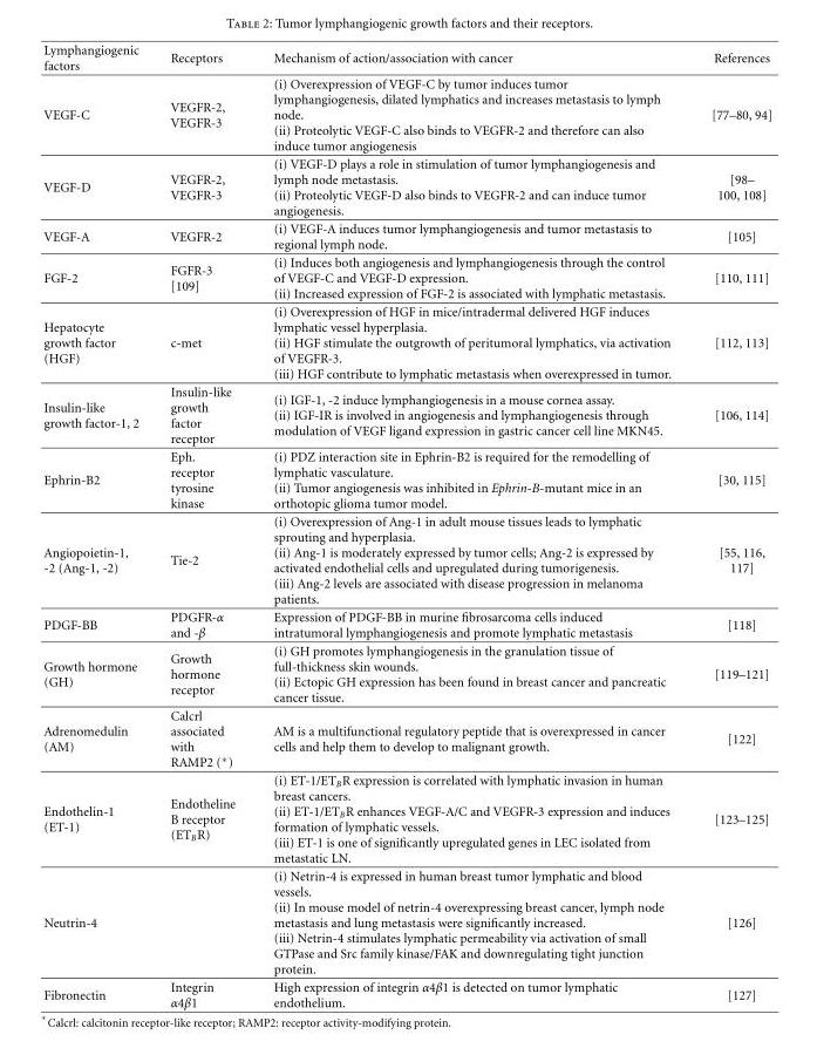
<table><thead><tr><td>Lymphangiogenic factors</td><td>Receptors</td><td>Mechanism of action/association with cancer</td><td>References</td></tr></thead><tbody><tr><td>VEGF-C</td><td>VEGFR-2, VEGFR-3</td><td>(i) Overexpression of VEGF-C by tumor induces tumor lymphangiogenesis, dilated lymphatics and increases metastasis to lymph node. (ii) Proteolytic VEGF-C also binds to VEGFR-2 and therefore can also induce tumor angiogenesis</td><td>[77–80, 94]</td></tr><tr><td>VEGF-D</td><td>VEGFR-2, VEGFR-3</td><td>(i) VEGF-D plays a role in stimulation of tumor lymphangiogenesis and lymph node metastasis. (ii) Proteolytic VEGF-D also binds to VEGFR-2 and can induce tumor angiogenesis.</td><td>[98– 100, 108]</td></tr><tr><td>VEGF-A</td><td>VEGFR-2</td><td>(i) VEGF-A induces tumor lymphangiogenesis and tumor metastasis to regional lymph node.</td><td>[105]</td></tr><tr><td>FGF-2</td><td>FGFR-3 [109]</td><td>(i) Induces both angiogenesis and lymphangiogenesis through the control of VEGF-C and VEGF-D expression. (ii) Increased expression of FGF-2 is associated with lymphatic metastasis.</td><td>[110, 111]</td></tr><tr><td>Hepatocyte growth factor (HGF)</td><td>c-met</td><td>(i) Overexpression of HGF in mice/intradermal delivered HGF induces lymphatic vessel hyperplasia. (ii) HGF stimulate the outgrowth of peritumoral lymphatics, via activation of VEGFR-3. (iii) HGF contribute to lymphatic metastasis when overexpressed in tumor.</td><td>[112, 113]</td></tr><tr><td>Insulin-like growth factor-1, 2</td><td>Insulin-like growth factor receptor</td><td>(i) IGF-1, -2 induce lymphangiogenesis in a mouse cornea assay. (ii) IGF-IR is involved in angiogenesis and lymphangiogenesis through modulation of VEGF ligand expression in gastric cancer cell line MKN45.</td><td>[106, 114]</td></tr><tr><td>Ephrin-B2</td><td>Eph. receptor tyrosine kinase</td><td>(i) PDZ interaction site in Ephrin-B2 is required for the remodelling of lymphatic vasculature. (ii) Tumor angiogenesis was inhibited in Ephrin-B-mutant mice in an orthotopic glioma tumor model.</td><td>[30, 115]</td></tr><tr><td>Angiopoietin-1, -2 (Ang-1, -2)</td><td>Tie-2</td><td>(i) Overexpression of Ang-1 in adult mouse tissues leads to lymphatic sprouting and hyperplasia. (ii) Ang-1 is moderately expressed by tumor cells; Ang-2 is expressed by activated endothelial cells and upregulated during tumorigenesis. (iii) Ang-2 levels are associated with disease progression in melanoma patients.</td><td>[55, 116, 117]</td></tr><tr><td>PDGF-BB</td><td>PDGFR-α and -β</td><td>Expression of PDGF-BB in murine fibrosarcoma cells induced intratumoral lymphangiogenesis and promote lymphatic metastasis</td><td>[118]</td></tr><tr><td>Growth hormone (GH)</td><td>Growth hormone receptor</td><td>(i) GH promotes lymphangiogenesis in the granulation tissue of full-thickness skin wounds. (ii) Ectopic GH expression has been found in breast cancer and pancreatic cancer tissue.</td><td>[119–121]</td></tr><tr><td>Adrenomedulin (AM)</td><td>Calcrl associated with RAMP2 (∗)</td><td>AM is a multifunctional regulatory peptide that is overexpressed in cancer cells and help them to develop to malignant growth.</td><td>[122]</td></tr><tr><td>Endothelin-1 (ET-1)</td><td>Endotheline B receptor (ETBR)</td><td>(i) ET-1/ETBR expression is correlated with lymphatic invasion in human breast cancers. (ii) ET-1/ETBR enhances VEGF-A/C and VEGFR-3 expression and induces formation of lymphatic vessels. (iii) ET-1 is one of significantly upregulated genes in LEC isolated from metastatic LN.</td><td>[123–125]</td></tr><tr><td>Neutrin-4</td><td></td><td>(i) Netrin-4 is expressed in human breast tumor lymphatic and blood vessels. (ii) In mouse model of netrin-4 overexpressing breast cancer, lymph node metastasis and lung metastasis were significantly increased. (iii) Netrin-4 stimulates lymphatic permeability via activation of small GTPase and Src family kinase/FAK and downregulating tight junction protein.</td><td>[126]</td></tr><tr><td>Fibronectin</td><td>Integrin α4β1</td><td>High expression of integrin α4β1 is detected on tumor lymphatic endothelium.</td><td>[127]</td></tr></tbody></table>